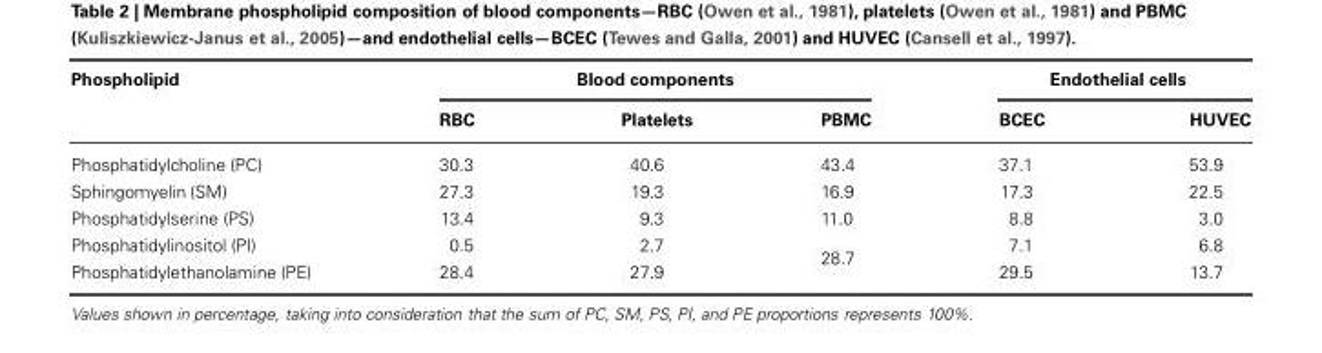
<table><thead><tr><td rowspan="2">Phospholipid</td><td colspan="3">Blood components</td><td colspan="2">Endothelial cells</td></tr><tr><td>RBC</td><td>Platelets</td><td>PBMC</td><td>BCEC</td><td>HUVEC</td></tr></thead><tbody><tr><td>Phosphatidylcholine (PC)</td><td>30.3</td><td>40.6</td><td>43.4</td><td>37.1</td><td>53.9</td></tr><tr><td>Sphingomyelin (SM)</td><td>27.3</td><td>19.3</td><td>16.9</td><td>17.3</td><td>22.5</td></tr><tr><td>Phosphatidylserine (PS)</td><td>13.4</td><td>9.3</td><td>11.0</td><td>8.8</td><td>3.0</td></tr><tr><td>Phosphatidylinositol (PI)</td><td>0.5</td><td>2.7</td><td rowspan="2">28.7</td><td>7.1</td><td>6.8</td></tr><tr><td>Phosphatidylethanolamine (PE)</td><td>28.4</td><td>27.9</td><td>29.5</td><td>13.7</td></tr></tbody></table>